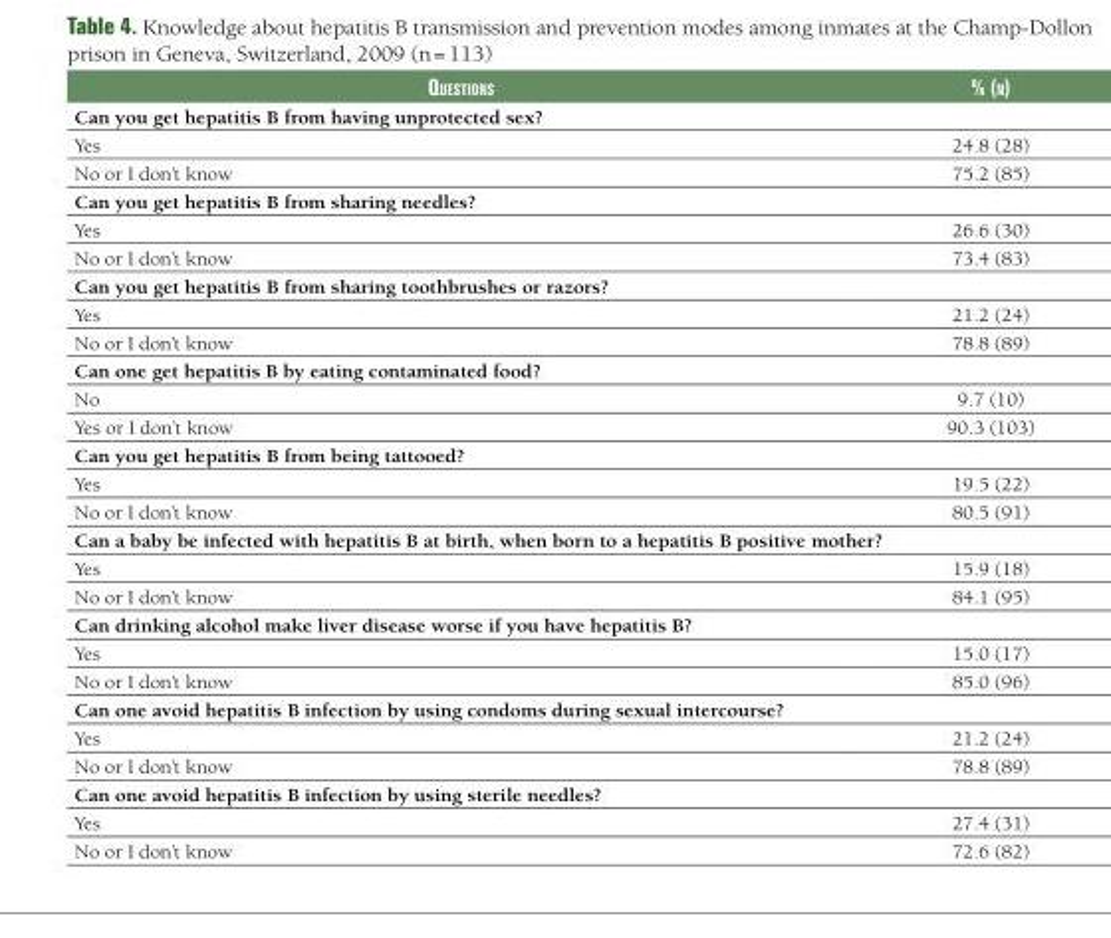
<table><thead><tr><td>Questions</td><td>% (n)</td></tr></thead><tbody><tr><td colspan="2">Can you get hepatitis B from having unprotected sex?</td></tr><tr><td>Yes</td><td>24.8 (28)</td></tr><tr><td>No or I don’t know</td><td>75.2 (85)</td></tr><tr><td colspan="2">Can you get hepatitis B from sharing needles?</td></tr><tr><td>Yes</td><td>26.6 (30)</td></tr><tr><td>No or I don’t know</td><td>73.4 (83)</td></tr><tr><td colspan="2">Can you get hepatitis B from sharing toothbrushes or razors?</td></tr><tr><td>Yes</td><td>21.2 (24)</td></tr><tr><td>No or I don’t know</td><td>78.8 (89)</td></tr><tr><td colspan="2">Can one get hepatitis B by eating contaminated food?</td></tr><tr><td>No</td><td>9.7 (10)</td></tr><tr><td>Yes or I don’t know</td><td>90.3 (103)</td></tr><tr><td colspan="2">Can you get hepatitis B from being tattooed?</td></tr><tr><td>Yes</td><td>19.5 (22)</td></tr><tr><td>No or I don’t know</td><td>80.5 (91)</td></tr><tr><td colspan="2">Can a baby be infected with hepatitis B at birth, when born to a hepatitis B positive mother?</td></tr><tr><td>Yes</td><td>15.9 (18)</td></tr><tr><td>No or I don’t know</td><td>84.1 (95)</td></tr><tr><td colspan="2">Can drinking alcohol make liver disease worse if you have hepatitis B?</td></tr><tr><td>Yes</td><td>15.0 (17)</td></tr><tr><td>No or I don’t know</td><td>85.0 (96)</td></tr><tr><td colspan="2">Can one avoid hepatitis B infection by using condoms during sexual intercourse?</td></tr><tr><td>Yes</td><td>21.2 (24)</td></tr><tr><td>No or I don’t know</td><td>78.8 (89)</td></tr><tr><td colspan="2">Can one avoid hepatitis B infection by using sterile needles?</td></tr><tr><td>Yes</td><td>27.4 (31)</td></tr><tr><td>No or I don’t know</td><td>72.6 (82)</td></tr></tbody></table>